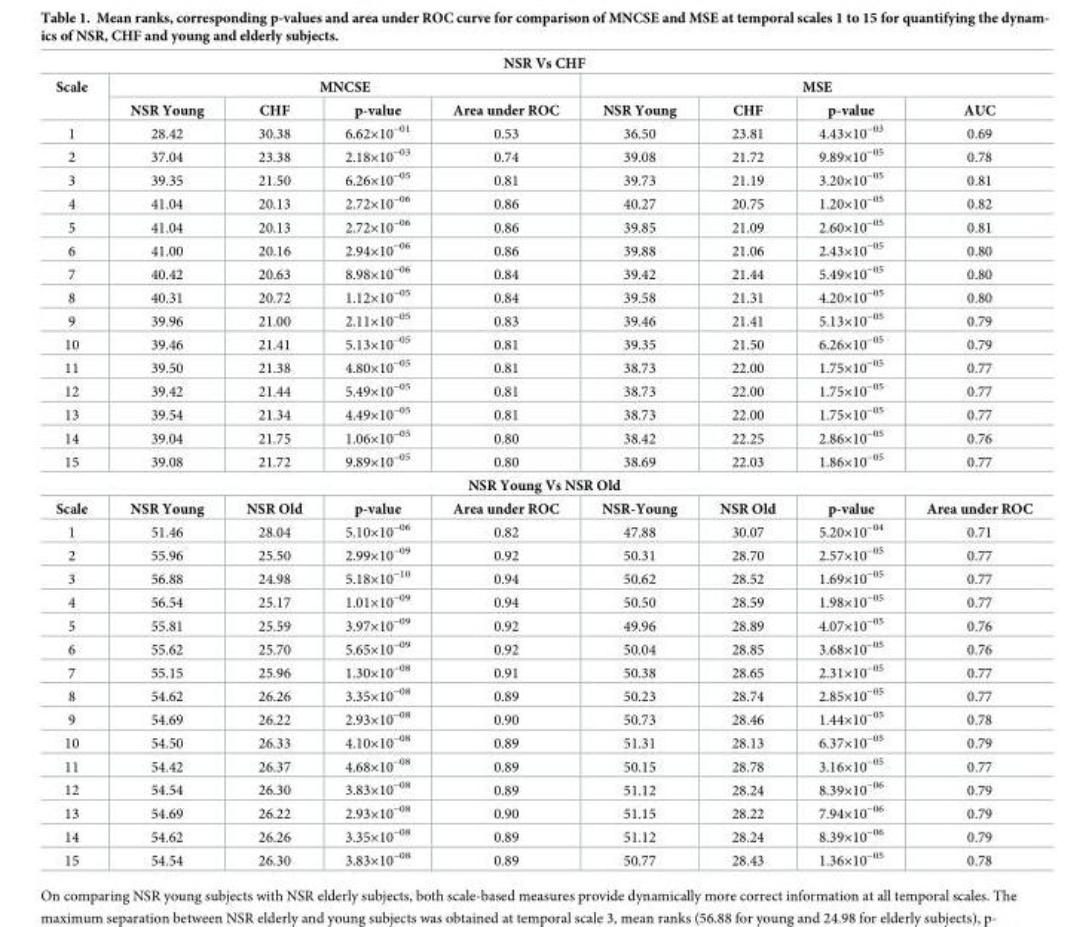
<table><tbody><tr><td colspan="9">NSR Vs CHF</td></tr><tr><td rowspan="2">Scale</td><td colspan="4">MNCSE</td><td colspan="4">MSE</td></tr><tr><td>NSR Young</td><td>CHF</td><td>p-value</td><td>Area under ROC</td><td>NSR Young</td><td>CHF</td><td>p-value</td><td>AUC</td></tr><tr><td>1</td><td>28.42</td><td>30.38</td><td>6.62×10<sup>−01</sup></td><td>0.53</td><td>36.50</td><td>23.81</td><td>4.43×10<sup>−03</sup></td><td>0.69</td></tr><tr><td>2</td><td>37.04</td><td>23.38</td><td>2.18×10<sup>−03</sup></td><td>0.74</td><td>39.08</td><td>21.72</td><td>9.89×10<sup>−05</sup></td><td>0.78</td></tr><tr><td>3</td><td>39.35</td><td>21.50</td><td>6.26×10<sup>−05</sup></td><td>0.81</td><td>39.73</td><td>21.19</td><td>3.20×10<sup>−05</sup></td><td>0.81</td></tr><tr><td>4</td><td>41.04</td><td>20.13</td><td>2.72×10<sup>−06</sup></td><td>0.86</td><td>40.27</td><td>20.75</td><td>1.20×10<sup>−05</sup></td><td>0.82</td></tr><tr><td>5</td><td>41.04</td><td>20.13</td><td>2.72×10<sup>−06</sup></td><td>0.86</td><td>39.85</td><td>21.09</td><td>2.60×10<sup>−05</sup></td><td>0.81</td></tr><tr><td>6</td><td>41.00</td><td>20.16</td><td>2.94×10<sup>−06</sup></td><td>0.86</td><td>39.88</td><td>21.06</td><td>2.43×10<sup>−05</sup></td><td>0.80</td></tr><tr><td>7</td><td>40.42</td><td>20.63</td><td>8.98×10<sup>−06</sup></td><td>0.84</td><td>39.42</td><td>21.44</td><td>5.49×10<sup>−05</sup></td><td>0.80</td></tr><tr><td>8</td><td>40.31</td><td>20.72</td><td>1.12×10<sup>−05</sup></td><td>0.84</td><td>39.58</td><td>21.31</td><td>4.20×10<sup>−05</sup></td><td>0.80</td></tr><tr><td>9</td><td>39.96</td><td>21.00</td><td>2.11×10<sup>−05</sup></td><td>0.83</td><td>39.46</td><td>21.41</td><td>5.13×10<sup>−05</sup></td><td>0.79</td></tr><tr><td>10</td><td>39.46</td><td>21.41</td><td>5.13×10<sup>−05</sup></td><td>0.81</td><td>39.35</td><td>21.50</td><td>6.26×10<sup>−05</sup></td><td>0.79</td></tr><tr><td>11</td><td>39.50</td><td>21.38</td><td>4.80×10<sup>−05</sup></td><td>0.81</td><td>38.73</td><td>22.00</td><td>1.75×10<sup>−05</sup></td><td>0.77</td></tr><tr><td>12</td><td>39.42</td><td>21.44</td><td>5.49×10<sup>−05</sup></td><td>0.81</td><td>38.73</td><td>22.00</td><td>1.75×10<sup>−05</sup></td><td>0.77</td></tr><tr><td>13</td><td>39.54</td><td>21.34</td><td>4.49×10<sup>−05</sup></td><td>0.81</td><td>38.73</td><td>22.00</td><td>1.75×10<sup>−05</sup></td><td>0.77</td></tr><tr><td>14</td><td>39.04</td><td>21.75</td><td>1.06×10<sup>−05</sup></td><td>0.80</td><td>38.42</td><td>22.25</td><td>2.86×10<sup>−05</sup></td><td>0.76</td></tr><tr><td>15</td><td>39.08</td><td>21.72</td><td>9.89×10<sup>−05</sup></td><td>0.80</td><td>38.69</td><td>22.03</td><td>1.86×10<sup>−05</sup></td><td>0.77</td></tr><tr><td colspan="9">NSR Young Vs NSR Old</td></tr><tr><td>Scale</td><td>NSR Young</td><td>NSR Old</td><td>p-value</td><td>Area under ROC</td><td>NSR-Young</td><td>NSR Old</td><td>p-value</td><td>Area under ROC</td></tr><tr><td>1</td><td>51.46</td><td>28.04</td><td>5.10×10<sup>−06</sup></td><td>0.82</td><td>47.88</td><td>30.07</td><td>5.20×10<sup>−04</sup></td><td>0.71</td></tr><tr><td>2</td><td>55.96</td><td>25.50</td><td>2.99×10<sup>−09</sup></td><td>0.92</td><td>50.31</td><td>28.70</td><td>2.57×10<sup>−05</sup></td><td>0.77</td></tr><tr><td>3</td><td>56.88</td><td>24.98</td><td>5.18×10<sup>−10</sup></td><td>0.94</td><td>50.62</td><td>28.52</td><td>1.69×10<sup>−05</sup></td><td>0.77</td></tr><tr><td>4</td><td>56.54</td><td>25.17</td><td>1.01×10<sup>−09</sup></td><td>0.94</td><td>50.50</td><td>28.59</td><td>1.98×10<sup>−05</sup></td><td>0.77</td></tr><tr><td>5</td><td>55.81</td><td>25.59</td><td>3.97×10<sup>−09</sup></td><td>0.92</td><td>49.96</td><td>28.89</td><td>4.07×10<sup>−05</sup></td><td>0.76</td></tr><tr><td>6</td><td>55.62</td><td>25.70</td><td>5.65×10<sup>−09</sup></td><td>0.92</td><td>50.04</td><td>28.85</td><td>3.68×10<sup>−05</sup></td><td>0.76</td></tr><tr><td>7</td><td>55.15</td><td>25.96</td><td>1.30×10<sup>−08</sup></td><td>0.91</td><td>50.38</td><td>28.65</td><td>2.31×10<sup>−05</sup></td><td>0.77</td></tr><tr><td>8</td><td>54.62</td><td>26.26</td><td>3.35×10<sup>−08</sup></td><td>0.89</td><td>50.23</td><td>28.74</td><td>2.85×10<sup>−05</sup></td><td>0.77</td></tr><tr><td>9</td><td>54.69</td><td>26.22</td><td>2.93×10<sup>−08</sup></td><td>0.90</td><td>50.73</td><td>28.46</td><td>1.44×10<sup>−05</sup></td><td>0.78</td></tr><tr><td>10</td><td>54.50</td><td>26.33</td><td>4.10×10<sup>−08</sup></td><td>0.89</td><td>51.31</td><td>28.13</td><td>6.37×10<sup>−05</sup></td><td>0.79</td></tr><tr><td>11</td><td>54.42</td><td>26.37</td><td>4.68×10<sup>−08</sup></td><td>0.89</td><td>50.15</td><td>28.78</td><td>3.16×10<sup>−05</sup></td><td>0.77</td></tr><tr><td>12</td><td>54.54</td><td>26.30</td><td>3.83×10<sup>−08</sup></td><td>0.89</td><td>51.12</td><td>28.24</td><td>8.39×10<sup>−06</sup></td><td>0.79</td></tr><tr><td>13</td><td>54.69</td><td>26.22</td><td>2.93×10<sup>−08</sup></td><td>0.90</td><td>51.15</td><td>28.22</td><td>7.94×10<sup>−06</sup></td><td>0.79</td></tr><tr><td>14</td><td>54.62</td><td>26.26</td><td>3.35×10<sup>−08</sup></td><td>0.89</td><td>51.12</td><td>28.24</td><td>8.39×10<sup>−06</sup></td><td>0.79</td></tr><tr><td>15</td><td>54.54</td><td>26.30</td><td>3.83×10<sup>−08</sup></td><td>0.89</td><td>50.77</td><td>28.43</td><td>1.36×10<sup>−05</sup></td><td>0.78</td></tr></tbody></table>